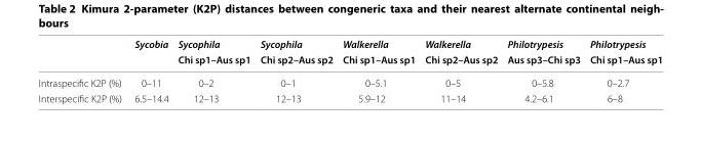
<table><thead><tr><td rowspan="2"></td><td rowspan="2">Sycobia</td><td rowspan="2">Sycophila Chi sp1–Aus sp1</td><td rowspan="2">Sycophila Chi sp2–Aus sp2</td><td rowspan="2">Walkerella Chi sp1–Aus sp1</td><td rowspan="2">Walkerella Chi sp2–Aus sp2</td><td rowspan="2">Philotrypesis Aus sp3–Chi sp3</td><td rowspan="2">Philotrypesis Chi sp1–Aus sp1</td></tr><tr></tr></thead><tbody><tr><td>Intraspecific K2P (%)</td><td>0–11</td><td>0–2</td><td>0–1</td><td>0–5.1</td><td>0–5</td><td>0–5.8</td><td>0–2.7</td></tr><tr><td>Interspecific K2P (%)</td><td>6.5–14.4</td><td>12–13</td><td>12–13</td><td>5.9–12</td><td>11–14</td><td>4.2–6.1</td><td>6–8</td></tr></tbody></table>